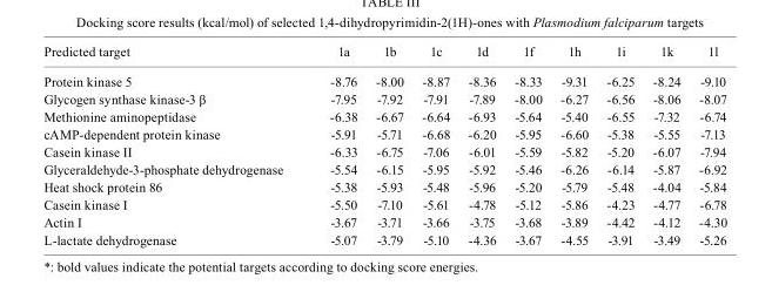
<table><thead><tr><td>Predicted target</td><td>1a</td><td>1b</td><td>1c</td><td>1d</td><td>1f</td><td>1h</td><td>1i</td><td>1k</td><td>1l</td></tr></thead><tbody><tr><td>Protein kinase 5</td><td>-8.76</td><td>-8.00</td><td>-8.87</td><td>-8.36</td><td>-8.33</td><td>-9.31</td><td>-6.25</td><td>-8.24</td><td>-9.10</td></tr><tr><td>Glycogen synthase kinase-3 β</td><td>-7.95</td><td>-7.92</td><td>-7.91</td><td>-7.89</td><td>-8.00</td><td>-6.27</td><td>-6.56</td><td>-8.06</td><td>-8.07</td></tr><tr><td>Methionine aminopeptidase</td><td>-6.38</td><td>-6.67</td><td>-6.64</td><td>-6.93</td><td>-5.64</td><td>-5.40</td><td>-6.55</td><td>-7.32</td><td>-6.74</td></tr><tr><td>cAMP-dependent protein kinase</td><td>-5.91</td><td>-5.71</td><td>-6.68</td><td>-6.20</td><td>-5.95</td><td>-6.60</td><td>-5.38</td><td>-5.55</td><td>-7.13</td></tr><tr><td>Casein kinase II</td><td>-6.33</td><td>-6.75</td><td>-7.06</td><td>-6.01</td><td>-5.59</td><td>-5.82</td><td>-5.20</td><td>-6.07</td><td>-7.94</td></tr><tr><td>Glyceraldehyde-3-phosphate dehydrogenase</td><td>-5.54</td><td>-6.15</td><td>-5.95</td><td>-5.92</td><td>-5.46</td><td>-6.26</td><td>-6.14</td><td>-5.87</td><td>-6.92</td></tr><tr><td>Heat shock protein 86</td><td>-5.38</td><td>-5.93</td><td>-5.48</td><td>-5.96</td><td>-5.20</td><td>-5.79</td><td>-5.48</td><td>-4.04</td><td>-5.84</td></tr><tr><td>Casein kinase I</td><td>-5.50</td><td>-7.10</td><td>-5.61</td><td>-4.78</td><td>-5.12</td><td>-5.86</td><td>-4.23</td><td>-4.77</td><td>-6.78</td></tr><tr><td>Actin I</td><td>-3.67</td><td>-3.71</td><td>-3.66</td><td>-3.75</td><td>-3.68</td><td>-3.89</td><td>-4.42</td><td>-4.12</td><td>-4.30</td></tr><tr><td>L-lactate dehydrogenase</td><td>-5.07</td><td>-3.79</td><td>-5.10</td><td>-4.36</td><td>-3.67</td><td>-4.55</td><td>-3.91</td><td>-3.49</td><td>-5.26</td></tr></tbody></table>